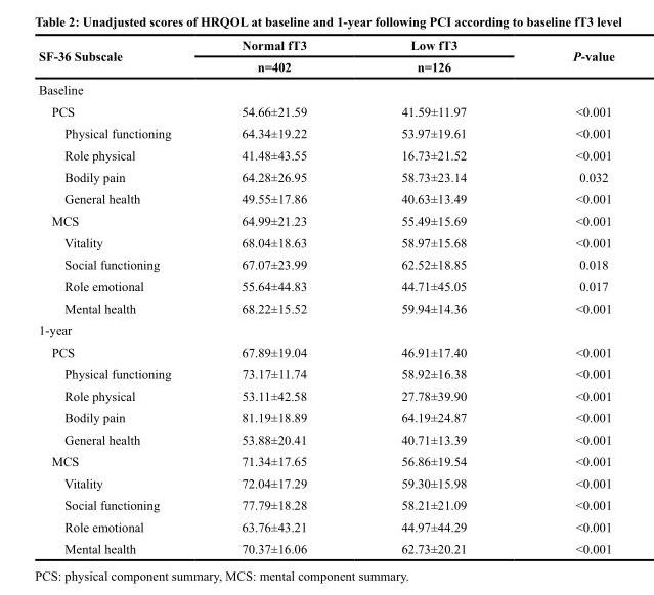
<table><thead><tr><td rowspan="2">SF-36 Subscale</td><td rowspan="2">Normal fT3 n=402</td><td rowspan="2">Low fT3 n=126</td><td rowspan="2">P-value</td></tr><tr></tr></thead><tbody><tr><td colspan="4">Baseline</td></tr><tr><td>PCS</td><td>54.66±21.59</td><td>41.59±11.97</td><td>&lt;0.001</td></tr><tr><td>Physical functioning</td><td>64.34±19.22</td><td>53.97±19.61</td><td>&lt;0.001</td></tr><tr><td>Role physical</td><td>41.48±43.55</td><td>16.73±21.52</td><td>&lt;0.001</td></tr><tr><td>Bodily pain</td><td>64.28±26.95</td><td>58.73±23.14</td><td>0.032</td></tr><tr><td>General health</td><td>49.55±17.86</td><td>40.63±13.49</td><td>&lt;0.001</td></tr><tr><td>MCS</td><td>64.99±21.23</td><td>55.49±15.69</td><td>&lt;0.001</td></tr><tr><td>Vitality</td><td>68.04±18.63</td><td>58.97±15.68</td><td>&lt;0.001</td></tr><tr><td>Social functioning</td><td>67.07±23.99</td><td>62.52±18.85</td><td>0.018</td></tr><tr><td>Role emotional</td><td>55.64±44.83</td><td>44.71±45.05</td><td>0.017</td></tr><tr><td>Mental health</td><td>68.22±15.52</td><td>59.94±14.36</td><td>&lt;0.001</td></tr><tr><td colspan="4">1-year</td></tr><tr><td>PCS</td><td>67.89±19.04</td><td>46.91±17.40</td><td>&lt;0.001</td></tr><tr><td>Physical functioning</td><td>73.17±11.74</td><td>58.92±16.38</td><td>&lt;0.001</td></tr><tr><td>Role physical</td><td>53.11±42.58</td><td>27.78±39.90</td><td>&lt;0.001</td></tr><tr><td>Bodily pain</td><td>81.19±18.89</td><td>64.19±24.87</td><td>&lt;0.001</td></tr><tr><td>General health</td><td>53.88±20.41</td><td>40.71±13.39</td><td>&lt;0.001</td></tr><tr><td>MCS</td><td>71.34±17.65</td><td>56.86±19.54</td><td>&lt;0.001</td></tr><tr><td>Vitality</td><td>72.04±17.29</td><td>59.30±15.98</td><td>&lt;0.001</td></tr><tr><td>Social functioning</td><td>77.79±18.28</td><td>58.21±21.09</td><td>&lt;0.001</td></tr><tr><td>Role emotional</td><td>63.76±43.21</td><td>44.97±44.29</td><td>&lt;0.001</td></tr><tr><td>Mental health</td><td>70.37±16.06</td><td>62.73±20.21</td><td>&lt;0.001</td></tr></tbody></table>